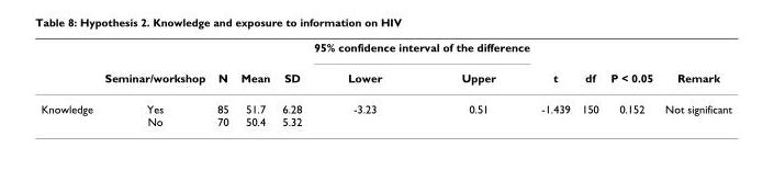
<table><thead><tr><td rowspan="2"></td><td rowspan="2">Seminar/workshop</td><td rowspan="2">N</td><td rowspan="2">Mean</td><td rowspan="2">SD</td><td colspan="2">95% confidence interval of the difference</td><td rowspan="2">t</td><td rowspan="2">df</td><td rowspan="2">P &lt; 0.05</td><td rowspan="2">Remark</td></tr><tr><td>Lower</td><td>Upper</td></tr></thead><tbody><tr><td>Knowledge</td><td>Yes No</td><td>85 70</td><td>51.7 50.4</td><td>6.28 5.32</td><td>-3.23</td><td>0.51</td><td>-1.439</td><td>150</td><td>0.152</td><td>Not significant</td></tr></tbody></table>